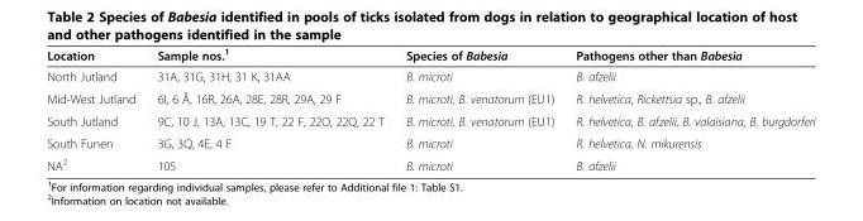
<table><thead><tr><td>Location</td><td>Sample nos.<sup>1</sup></td><td>Species of Babesia</td><td>Pathogens other than Babesia</td></tr></thead><tbody><tr><td>North Jutland</td><td>31A, 31G, 31H, 31 K, 31AA</td><td>B. microti</td><td>B. afzelii</td></tr><tr><td>Mid-West Jutland</td><td>6I, 6 Å, 16R, 26A, 28E, 28R, 29A, 29 F</td><td>B. microti, B. venatorum (EU1)</td><td>R. helvetica, Rickettsia sp., B. afzelii</td></tr><tr><td>South Jutland</td><td>9C, 10 J, 13A, 13C, 19 T, 22 F, 22O, 22Q, 22 T</td><td>B. microti, B. venatorum (EU1)</td><td>R. helvetica, B. afzelii, B. valaisiana, B. burgdorferi</td></tr><tr><td>South Funen</td><td>3G, 3Q, 4E, 4 F</td><td>B. microti</td><td>R. helvetica, N. mikurensis</td></tr><tr><td>NA<sup>2</sup></td><td>105</td><td>B. microti</td><td>B. afzelii</td></tr></tbody></table>